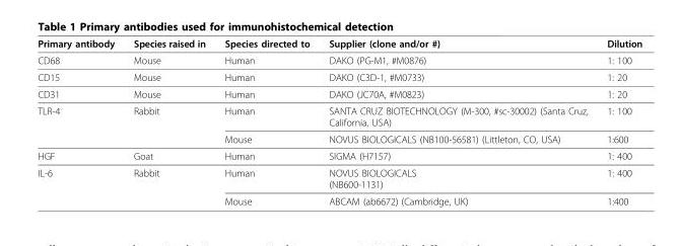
<table><thead><tr><td>Primary antibody</td><td>Species raised in</td><td>Species directed to</td><td>Supplier (clone and/or #)</td><td>Dilution</td></tr></thead><tbody><tr><td>CD68</td><td>Mouse</td><td>Human</td><td>DAKO (PG-M1, #M0876)</td><td>1: 100</td></tr><tr><td>CD15</td><td>Mouse</td><td>Human</td><td>DAKO (C3D-1, #M0733)</td><td>1: 20</td></tr><tr><td>CD31</td><td>Mouse</td><td>Human</td><td>DAKO (JC70A, #M0823)</td><td>1: 20</td></tr><tr><td rowspan="2">TLR-4</td><td>Rabbit</td><td>Human</td><td>SANTA CRUZ BIOTECHNOLOGY (M-300, #sc-30002) (Santa Cruz, California, USA)</td><td>1: 100</td></tr><tr><td></td><td>Mouse</td><td>NOVUS BIOLOGICALS (NB100-56581) (Littleton, CO, USA)</td><td>1:600</td></tr><tr><td>HGF</td><td>Goat</td><td>Human</td><td>SIGMA (H7157)</td><td>1: 400</td></tr><tr><td rowspan="2">IL-6</td><td>Rabbit</td><td>Human</td><td>NOVUS BIOLOGICALS (NB600-1131)</td><td>1: 400</td></tr><tr><td></td><td>Mouse</td><td>ABCAM (ab6672) (Cambridge, UK)</td><td>1:400</td></tr></tbody></table>